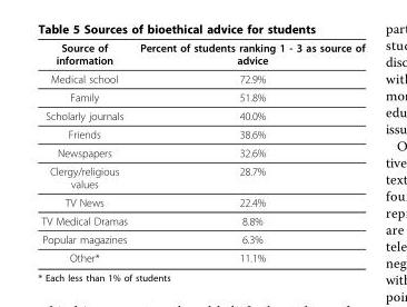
<table><thead><tr><td>Source of information</td><td>Percent of students ranking 1 - 3 as source of advice</td></tr></thead><tbody><tr><td>Medical school</td><td>72.9%</td></tr><tr><td>Family</td><td>51.8%</td></tr><tr><td>Scholarly journals</td><td>40.0%</td></tr><tr><td>Friends</td><td>38.6%</td></tr><tr><td>Newspapers</td><td>32.6%</td></tr><tr><td>Clergy/religious values</td><td>28.7%</td></tr><tr><td>TV News</td><td>22.4%</td></tr><tr><td>TV Medical Dramas</td><td>8.8%</td></tr><tr><td>Popular magazines</td><td>6.3%</td></tr><tr><td>Other*</td><td>11.1%</td></tr></tbody></table>